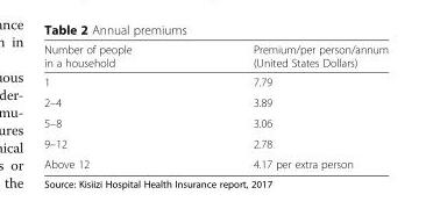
<table><thead><tr><td>Number of people in a household</td><td>Premium/per person/annum (United States Dollars)</td></tr></thead><tbody><tr><td>1</td><td>7.79</td></tr><tr><td>2–4</td><td>3.89</td></tr><tr><td>5–8</td><td>3.06</td></tr><tr><td>9–12</td><td>2.78</td></tr><tr><td>Above 12</td><td>4.17 per extra person</td></tr></tbody></table>